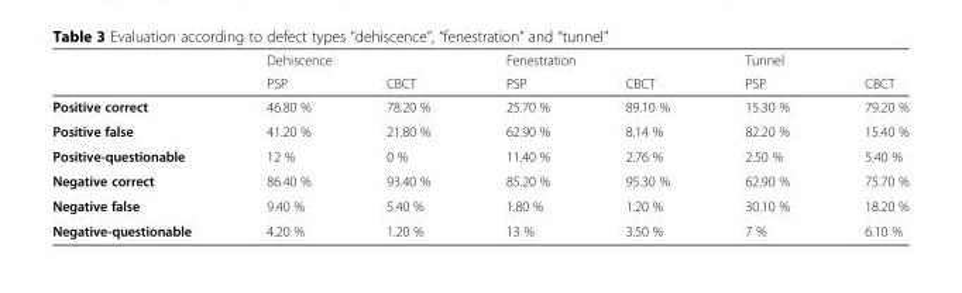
<table><thead><tr><td rowspan="2"></td><td colspan="2">Dehiscence</td><td colspan="2">Fenestration</td><td colspan="2">Tunnel</td></tr><tr><td>PSP</td><td>CBCT</td><td>PSP</td><td>CBCT</td><td>PSP</td><td>CBCT</td></tr></thead><tbody><tr><td>Positive correct</td><td>46.80 %</td><td>78.20 %</td><td>25.70 %</td><td>89.10 %</td><td>15.30 %</td><td>79.20 %</td></tr><tr><td>Positive false</td><td>41.20 %</td><td>21.80 %</td><td>62.90 %</td><td>8.14 %</td><td>82.20 %</td><td>15.40 %</td></tr><tr><td>Positive-questionable</td><td>12 %</td><td>0 %</td><td>11.40 %</td><td>2.76 %</td><td>2.50 %</td><td>5.40 %</td></tr><tr><td>Negative correct</td><td>86.40 %</td><td>93.40 %</td><td>85.20 %</td><td>95.30 %</td><td>62.90 %</td><td>75.70 %</td></tr><tr><td>Negative false</td><td>9.40 %</td><td>5.40 %</td><td>1.80 %</td><td>1.20 %</td><td>30.10 %</td><td>18.20 %</td></tr><tr><td>Negative-questionable</td><td>4.20 %</td><td>1.20 %</td><td>13 %</td><td>3.50 %</td><td>7 %</td><td>6.10 %</td></tr></tbody></table>